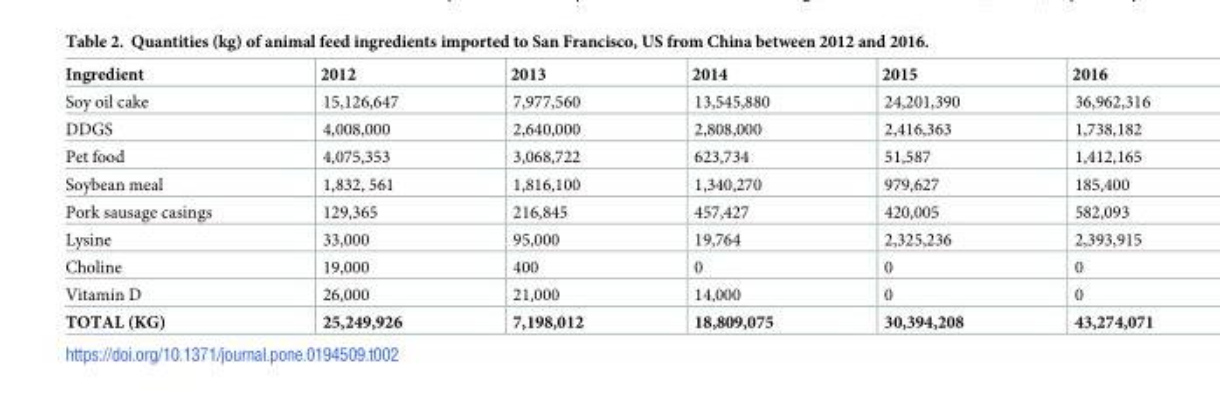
<table><thead><tr><td>Ingredient</td><td>2012</td><td>2013</td><td>2014</td><td>2015</td><td>2016</td></tr></thead><tbody><tr><td>Soy oil cake</td><td>15,126,647</td><td>7,977,560</td><td>13,545,880</td><td>24,201,390</td><td>36,962,316</td></tr><tr><td>DDGS</td><td>4,008,000</td><td>2,640,000</td><td>2,808,000</td><td>2,416,363</td><td>1,738,182</td></tr><tr><td>Pet food</td><td>4,075,353</td><td>3,068,722</td><td>623,734</td><td>51,587</td><td>1,412,165</td></tr><tr><td>Soybean meal</td><td>1,832, 561</td><td>1,816,100</td><td>1,340,270</td><td>979,627</td><td>185,400</td></tr><tr><td>Pork sausage casings</td><td>129,365</td><td>216,845</td><td>457,427</td><td>420,005</td><td>582,093</td></tr><tr><td>Lysine</td><td>33,000</td><td>95,000</td><td>19,764</td><td>2,325,236</td><td>2,393,915</td></tr><tr><td>Choline</td><td>19,000</td><td>400</td><td>0</td><td>0</td><td>0</td></tr><tr><td>Vitamin D</td><td>26,000</td><td>21,000</td><td>14,000</td><td>0</td><td>0</td></tr><tr><td>TOTAL (KG)</td><td>25,249,926</td><td>7,198,012</td><td>18,809,075</td><td>30,394,208</td><td>43,274,071</td></tr></tbody></table>